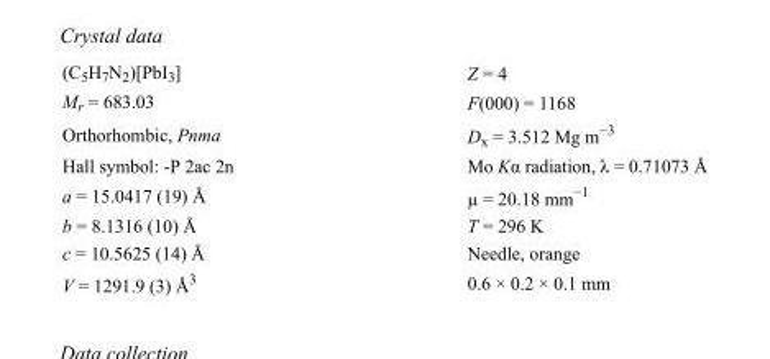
<table><tbody><tr><td>(C<sub>5</sub>H<sub>7</sub>N<sub>2</sub>)[PbI<sub>3</sub>]</td><td>Z = 4</td></tr><tr><td>M<sub>r</sub> = 683.03</td><td>F(000) = 1168</td></tr><tr><td>Orthorhombic, Pnma</td><td>D<sub>x</sub> = 3.512 Mg m<sup>−3</sup></td></tr><tr><td>Hall symbol: -P 2ac 2n</td><td>Mo Kα radiation, λ = 0.71073 Å</td></tr><tr><td>a = 15.0417 (19) Å</td><td>µ = 20.18 mm<sup>−1</sup></td></tr><tr><td>b = 8.1316 (10) Å</td><td>T = 296 K</td></tr><tr><td>c = 10.5625 (14) Å</td><td>Needle, orange</td></tr><tr><td>V = 1291.9 (3) Å<sup>3</sup></td><td>0.6 × 0.2 × 0.1 mm</td></tr></tbody></table>